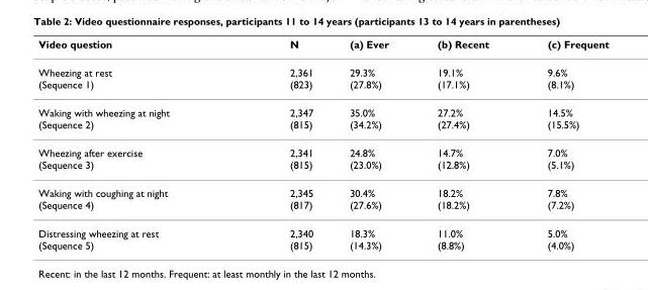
<table><thead><tr><td>Video question</td><td>N</td><td>(a) Ever</td><td>(b) Recent</td><td>(c) Frequent</td></tr></thead><tbody><tr><td>Wheezing at rest (Sequence 1)</td><td>2,361 (823)</td><td>29.3% (27.8%)</td><td>19.1% (17.1%)</td><td>9.6% (8.1%)</td></tr><tr><td>Waking with wheezing at night (Sequence 2)</td><td>2,347 (815)</td><td>35.0% (34.2%)</td><td>27.2% (27.4%)</td><td>14.5% (15.5%)</td></tr><tr><td>Wheezing after exercise (Sequence 3)</td><td>2,341 (815)</td><td>24.8% (23.0%)</td><td>14.7% (12.8%)</td><td>7.0% (5.1%)</td></tr><tr><td>Waking with coughing at night (Sequence 4)</td><td>2,345 (817)</td><td>30.4% (27.6%)</td><td>18.2% (18.2%)</td><td>7.8% (7.2%)</td></tr><tr><td>Distressing wheezing at rest (Sequence 5)</td><td>2,340 (815)</td><td>18.3% (14.3%)</td><td>11.0% (8.8%)</td><td>5.0% (4.0%)</td></tr></tbody></table>